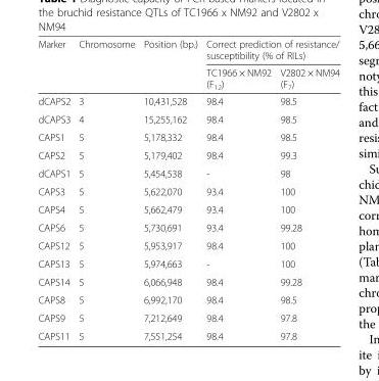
<table><thead><tr><td rowspan="2">Marker</td><td rowspan="2">Chromosome</td><td rowspan="2">Position (bp.)</td><td colspan="2">Correct prediction of resistance/ susceptibility (% of RILs)</td></tr><tr><td>TC1966 × NM92 (F<sub>12</sub>)</td><td>V2802 × NM94 (F<sub>7</sub>)</td></tr></thead><tbody><tr><td>dCAPS2</td><td>3</td><td>10,431,528</td><td>98.4</td><td>98.5</td></tr><tr><td>dCAPS3</td><td>4</td><td>15,255,162</td><td>98.4</td><td>98.5</td></tr><tr><td>CAPS1</td><td>5</td><td>5,178,332</td><td>98.4</td><td>98.5</td></tr><tr><td>CAPS2</td><td>5</td><td>5,179,402</td><td>98.4</td><td>99.3</td></tr><tr><td>dCAPS1</td><td>5</td><td>5,454,538</td><td>-</td><td>98</td></tr><tr><td>CAPS3</td><td>5</td><td>5,622,070</td><td>93.4</td><td>100</td></tr><tr><td>CAPS4</td><td>5</td><td>5,662,479</td><td>93.4</td><td>100</td></tr><tr><td>CAPS6</td><td>5</td><td>5,730,691</td><td>93.4</td><td>99.28</td></tr><tr><td>CAPS12</td><td>5</td><td>5,953,917</td><td>98.4</td><td>100</td></tr><tr><td>CAPS13</td><td>5</td><td>5,974,663</td><td>-</td><td>100</td></tr><tr><td>CAPS14</td><td>5</td><td>6,066,948</td><td>98.4</td><td>99.28</td></tr><tr><td>CAPS8</td><td>5</td><td>6,992,170</td><td>98.4</td><td>98.5</td></tr><tr><td>CAPS9</td><td>5</td><td>7,212,649</td><td>98.4</td><td>97.8</td></tr><tr><td>CAPS11</td><td>5</td><td>7,551,254</td><td>98.4</td><td>97.8</td></tr></tbody></table>